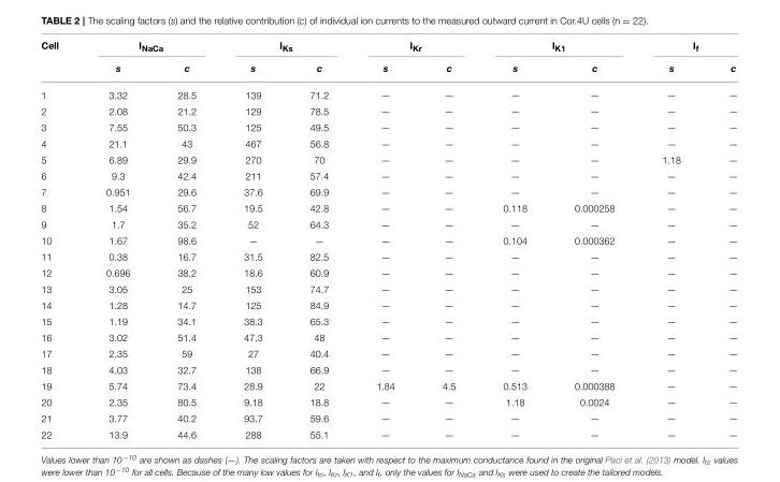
<table><thead><tr><td rowspan="2">Cell</td><td colspan="2">I<sub>NaCa</sub></td><td colspan="2">I<sub>Ks</sub></td><td colspan="2">I<sub>Kr</sub></td><td colspan="2">I<sub>K1</sub></td><td colspan="2">I<sub>f</sub></td></tr><tr><td>s</td><td>c</td><td>s</td><td>c</td><td>s</td><td>c</td><td>s</td><td>c</td><td>s</td><td>c</td></tr></thead><tbody><tr><td>1</td><td>3.32</td><td>28.5</td><td>139</td><td>71.2</td><td>—</td><td>—</td><td>—</td><td>—</td><td>—</td><td>—</td></tr><tr><td>2</td><td>2.08</td><td>21.2</td><td>129</td><td>78.5</td><td>—</td><td>—</td><td>—</td><td>—</td><td>—</td><td>—</td></tr><tr><td>3</td><td>7.55</td><td>50.3</td><td>125</td><td>49.5</td><td>—</td><td>—</td><td>—</td><td>—</td><td>—</td><td>—</td></tr><tr><td>4</td><td>21.1</td><td>43</td><td>467</td><td>56.8</td><td>—</td><td>—</td><td>—</td><td>—</td><td>—</td><td>—</td></tr><tr><td>5</td><td>6.89</td><td>29.9</td><td>270</td><td>70</td><td>—</td><td>—</td><td>—</td><td>—</td><td>1.18</td><td>—</td></tr><tr><td>6</td><td>9.3</td><td>42.4</td><td>211</td><td>57.4</td><td>—</td><td>—</td><td>—</td><td>—</td><td>—</td><td>—</td></tr><tr><td>7</td><td>0.951</td><td>29.6</td><td>37.6</td><td>69.9</td><td>—</td><td>—</td><td>—</td><td>—</td><td>—</td><td>—</td></tr><tr><td>8</td><td>1.54</td><td>56.7</td><td>19.5</td><td>42.8</td><td>—</td><td>—</td><td>0.118</td><td>0.000258</td><td>—</td><td>—</td></tr><tr><td>9</td><td>1.7</td><td>35.2</td><td>52</td><td>64.3</td><td>—</td><td>—</td><td>—</td><td>—</td><td>—</td><td>—</td></tr><tr><td>10</td><td>1.67</td><td>98.6</td><td>—</td><td>—</td><td>—</td><td>—</td><td>0.104</td><td>0.000362</td><td>—</td><td>—</td></tr><tr><td>11</td><td>0.38</td><td>16.7</td><td>31.5</td><td>82.5</td><td>—</td><td>—</td><td>—</td><td>—</td><td>—</td><td>—</td></tr><tr><td>12</td><td>0.696</td><td>38.2</td><td>18.6</td><td>60.9</td><td>—</td><td>—</td><td>—</td><td>—</td><td>—</td><td>—</td></tr><tr><td>13</td><td>3.05</td><td>25</td><td>153</td><td>74.7</td><td>—</td><td>—</td><td>—</td><td>—</td><td>—</td><td>—</td></tr><tr><td>14</td><td>1.28</td><td>14.7</td><td>125</td><td>84.9</td><td>—</td><td>—</td><td>—</td><td>—</td><td>—</td><td>—</td></tr><tr><td>15</td><td>1.19</td><td>34.1</td><td>38.3</td><td>65.3</td><td>—</td><td>—</td><td>—</td><td>—</td><td>—</td><td>—</td></tr><tr><td>16</td><td>3.02</td><td>51.4</td><td>47.3</td><td>48</td><td>—</td><td>—</td><td>—</td><td>—</td><td>—</td><td>—</td></tr><tr><td>17</td><td>2.35</td><td>59</td><td>27</td><td>40.4</td><td>—</td><td>—</td><td>—</td><td>—</td><td>—</td><td>—</td></tr><tr><td>18</td><td>4.03</td><td>32.7</td><td>138</td><td>66.9</td><td>—</td><td>—</td><td>—</td><td>—</td><td>—</td><td>—</td></tr><tr><td>19</td><td>5.74</td><td>73.4</td><td>28.9</td><td>22</td><td>1.84</td><td>4.5</td><td>0.513</td><td>0.000388</td><td>—</td><td>—</td></tr><tr><td>20</td><td>2.35</td><td>80.5</td><td>9.18</td><td>18.8</td><td>—</td><td>—</td><td>1.18</td><td>0.0024</td><td>—</td><td>—</td></tr><tr><td>21</td><td>3.77</td><td>40.2</td><td>93.7</td><td>59.6</td><td>—</td><td>—</td><td>—</td><td>—</td><td>—</td><td>—</td></tr><tr><td>22</td><td>13.9</td><td>44.6</td><td>288</td><td>55.1</td><td>—</td><td>—</td><td>—</td><td>—</td><td>—</td><td>—</td></tr></tbody></table>